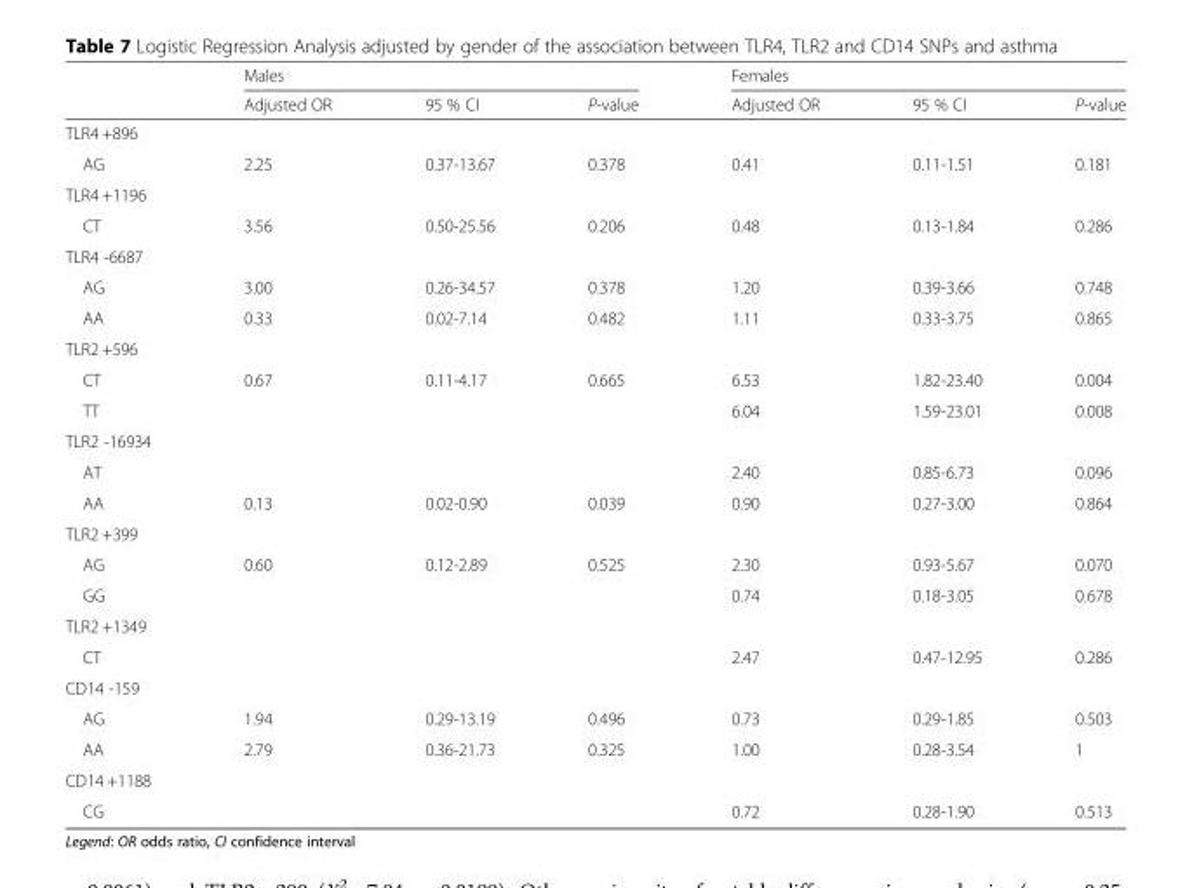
<table><thead><tr><td rowspan="2"></td><td colspan="3">Males</td><td colspan="3">Females</td></tr><tr><td>Adjusted OR</td><td>95 % CI</td><td>P-value</td><td>Adjusted OR</td><td>95 % CI</td><td>P-value</td></tr></thead><tbody><tr><td colspan="7">TLR4 +896</td></tr><tr><td>AG</td><td>2.25</td><td>0.37-13.67</td><td>0.378</td><td>0.41</td><td>0.11-1.51</td><td>0.181</td></tr><tr><td colspan="7">TLR4 +1196</td></tr><tr><td>CT</td><td>3.56</td><td>0.50-25.56</td><td>0.206</td><td>0.48</td><td>0.13-1.84</td><td>0.286</td></tr><tr><td colspan="7">TLR4 -6687</td></tr><tr><td>AG</td><td>3.00</td><td>0.26-34.57</td><td>0.378</td><td>1.20</td><td>0.39-3.66</td><td>0.748</td></tr><tr><td>AA</td><td>0.33</td><td>0.02-7.14</td><td>0.482</td><td>1.11</td><td>0.33-3.75</td><td>0.865</td></tr><tr><td colspan="7">TLR2 +596</td></tr><tr><td>CT</td><td>0.67</td><td>0.11-4.17</td><td>0.665</td><td>6.53</td><td>1.82-23.40</td><td>0.004</td></tr><tr><td>TT</td><td></td><td></td><td></td><td>6.04</td><td>1.59-23.01</td><td>0.008</td></tr><tr><td colspan="7">TLR2 -16934</td></tr><tr><td>AT</td><td></td><td></td><td></td><td>2.40</td><td>0.85-6.73</td><td>0.096</td></tr><tr><td>AA</td><td>0.13</td><td>0.02-0.90</td><td>0.039</td><td>0.90</td><td>0.27-3.00</td><td>0.864</td></tr><tr><td colspan="7">TLR2 +399</td></tr><tr><td>AG</td><td>0.60</td><td>0.12-2.89</td><td>0.525</td><td>2.30</td><td>0.93-5.67</td><td>0.070</td></tr><tr><td>GG</td><td></td><td></td><td></td><td>0.74</td><td>0.18-3.05</td><td>0.678</td></tr><tr><td colspan="7">TLR2 +1349</td></tr><tr><td>CT</td><td></td><td></td><td></td><td>2.47</td><td>0.47-12.95</td><td>0.286</td></tr><tr><td colspan="7">CD14 -159</td></tr><tr><td>AG</td><td>1.94</td><td>0.29-13.19</td><td>0.496</td><td>0.73</td><td>0.29-1.85</td><td>0.503</td></tr><tr><td>AA</td><td>2.79</td><td>0.36-21.73</td><td>0.325</td><td>1.00</td><td>0.28-3.54</td><td>1</td></tr><tr><td colspan="7">CD14 +1188</td></tr><tr><td>CG</td><td></td><td></td><td></td><td>0.72</td><td>0.28-1.90</td><td>0.513</td></tr></tbody></table>